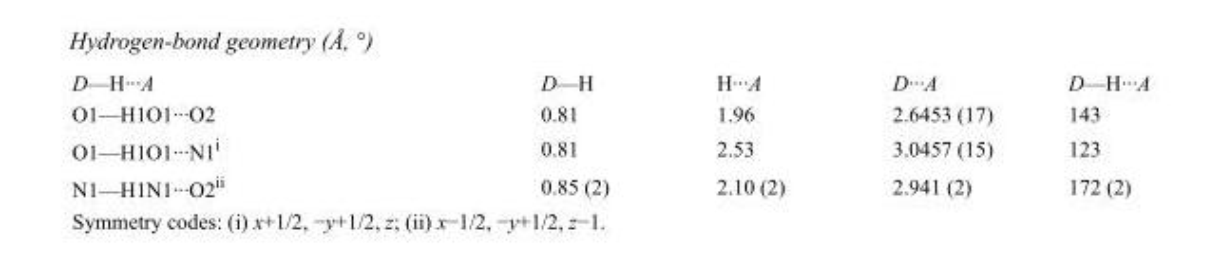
<table><tbody><tr><td>D—H···A</td><td>D—H</td><td>H···A</td><td>D···A</td><td>D—H···A</td></tr><tr><td>O1—H1O1···O2</td><td>0.81</td><td>1.96</td><td>2.6453 (17)</td><td>143</td></tr><tr><td>O1—H1O1···N1<sup>i</sup></td><td>0.81</td><td>2.53</td><td>3.0457 (15)</td><td>123</td></tr><tr><td>N1—H1N1···O2<sup>ii</sup></td><td>0.85 (2)</td><td>2.10 (2)</td><td>2.941 (2)</td><td>172 (2)</td></tr></tbody></table>